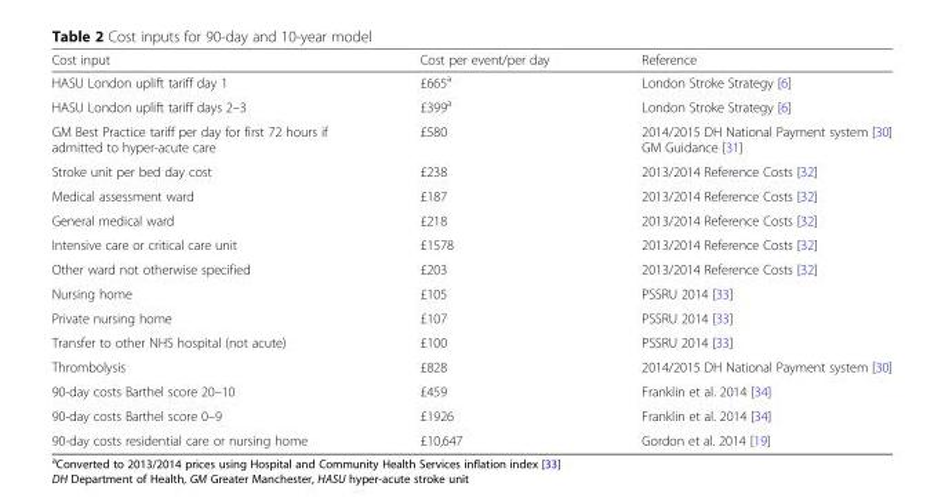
<table><thead><tr><td>Cost input</td><td>Cost per event/per day</td><td>Reference</td></tr></thead><tbody><tr><td>HASU London uplift tariff day 1</td><td>£665<sup>a</sup></td><td>London Stroke Strategy [6]</td></tr><tr><td>HASU London uplift tariff days 2–3</td><td>£399<sup>a</sup></td><td>London Stroke Strategy [6]</td></tr><tr><td>GM Best Practice tariff per day for first 72 hours if admitted to hyper-acute care</td><td>£580</td><td>2014/2015 DH National Payment system [30] GM Guidance [31]</td></tr><tr><td>Stroke unit per bed day cost</td><td>£238</td><td>2013/2014 Reference Costs [32]</td></tr><tr><td>Medical assessment ward</td><td>£187</td><td>2013/2014 Reference Costs [32]</td></tr><tr><td>General medical ward</td><td>£218</td><td>2013/2014 Reference Costs [32]</td></tr><tr><td>Intensive care or critical care unit</td><td>£1578</td><td>2013/2014 Reference Costs [32]</td></tr><tr><td>Other ward not otherwise specified</td><td>£203</td><td>2013/2014 Reference Costs [32]</td></tr><tr><td>Nursing home</td><td>£105</td><td>PSSRU 2014 [33]</td></tr><tr><td>Private nursing home</td><td>£107</td><td>PSSRU 2014 [33]</td></tr><tr><td>Transfer to other NHS hospital (not acute)</td><td>£100</td><td>PSSRU 2014 [33]</td></tr><tr><td>Thrombolysis</td><td>£828</td><td>2014/2015 DH National Payment system [30]</td></tr><tr><td>90-day costs Barthel score 20–10</td><td>£459</td><td>Franklin et al. 2014 [34]</td></tr><tr><td>90-day costs Barthel score 0–9</td><td>£1926</td><td>Franklin et al. 2014 [34]</td></tr><tr><td>90-day costs residential care or nursing home</td><td>£10,647</td><td>Gordon et al. 2014 [19]</td></tr></tbody></table>